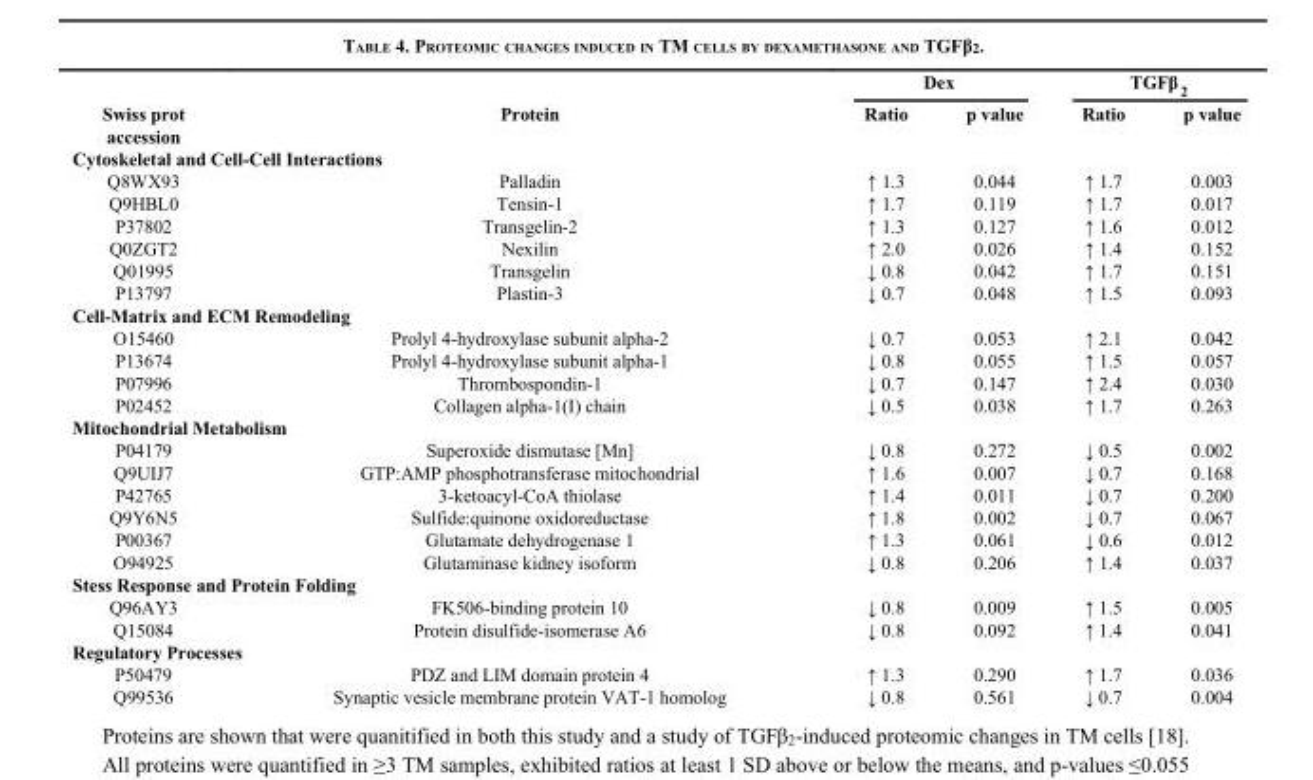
<table><thead><tr><td rowspan="2">Swiss prot accession</td><td rowspan="2">Protein</td><td colspan="2">Dex</td><td colspan="2">TGFβ <sub>2</sub></td></tr><tr><td>Ratio</td><td>p value</td><td>Ratio</td><td>p value</td></tr></thead><tbody><tr><td colspan="6">Cytoskeletal and Cell-Cell Interactions</td></tr><tr><td>Q8WX93</td><td>Palladin</td><td>↑ 1.3</td><td>0.044</td><td>↑ 1.7</td><td>0.003</td></tr><tr><td>Q9HBL0</td><td>Tensin-1</td><td>↑ 1.7</td><td>0.119</td><td>↑ 1.7</td><td>0.017</td></tr><tr><td>P37802</td><td>Transgelin-2</td><td>↑ 1.3</td><td>0.127</td><td>↑ 1.6</td><td>0.012</td></tr><tr><td>Q0ZGT2</td><td>Nexilin</td><td>↑ 2.0</td><td>0.026</td><td>↑ 1.4</td><td>0.152</td></tr><tr><td>Q01995</td><td>Transgelin</td><td>↓ 0.8</td><td>0.042</td><td>↑ 1.7</td><td>0.151</td></tr><tr><td>P13797</td><td>Plastin-3</td><td>↓ 0.7</td><td>0.048</td><td>↑ 1.5</td><td>0.093</td></tr><tr><td colspan="6">Cell-Matrix and ECM Remodeling</td></tr><tr><td>O15460</td><td>Prolyl 4-hydroxylase subunit alpha-2</td><td>↓ 0.7</td><td>0.053</td><td>↑ 2.1</td><td>0.042</td></tr><tr><td>P13674</td><td>Prolyl 4-hydroxylase subunit alpha-1</td><td>↓ 0.8</td><td>0.055</td><td>↑ 1.5</td><td>0.057</td></tr><tr><td>P07996</td><td>Thrombospondin-1</td><td>↓ 0.7</td><td>0.147</td><td>↑ 2.4</td><td>0.030</td></tr><tr><td>P02452</td><td>Collagen alpha-1(I) chain</td><td>↓ 0.5</td><td>0.038</td><td>↑ 1.7</td><td>0.263</td></tr><tr><td colspan="6">Mitochondrial Metabolism</td></tr><tr><td>P04179</td><td>Superoxide dismutase [Mn]</td><td>↓ 0.8</td><td>0.272</td><td>↓ 0.5</td><td>0.002</td></tr><tr><td>Q9UIJ7</td><td>GTP:AMP phosphotransferase mitochondrial</td><td>↑ 1.6</td><td>0.007</td><td>↓ 0.7</td><td>0.168</td></tr><tr><td>P42765</td><td>3-ketoacyl-CoA thiolase</td><td>↑ 1.4</td><td>0.011</td><td>↓ 0.7</td><td>0.200</td></tr><tr><td>Q9Y6N5</td><td>Sulfide:quinone oxidoreductase</td><td>↑ 1.8</td><td>0.002</td><td>↓ 0.7</td><td>0.067</td></tr><tr><td>P00367</td><td>Glutamate dehydrogenase 1</td><td>↑ 1.3</td><td>0.061</td><td>↓ 0.6</td><td>0.012</td></tr><tr><td>O94925</td><td>Glutaminase kidney isoform</td><td>↓ 0.8</td><td>0.206</td><td>↑ 1.4</td><td>0.037</td></tr><tr><td colspan="6">Stess Response and Protein Folding</td></tr><tr><td>Q96AY3</td><td>FK506-binding protein 10</td><td>↓ 0.8</td><td>0.009</td><td>↑ 1.5</td><td>0.005</td></tr><tr><td>Q15084</td><td>Protein disulfide-isomerase A6</td><td>↓ 0.8</td><td>0.092</td><td>↑ 1.4</td><td>0.041</td></tr><tr><td colspan="6">Regulatory Processes</td></tr><tr><td>P50479</td><td>PDZ and LIM domain protein 4</td><td>↑ 1.3</td><td>0.290</td><td>↑ 1.7</td><td>0.036</td></tr><tr><td>Q99536</td><td>Synaptic vesicle membrane protein VAT-1 homolog</td><td>↓ 0.8</td><td>0.561</td><td>↓ 0.7</td><td>0.004</td></tr></tbody></table>